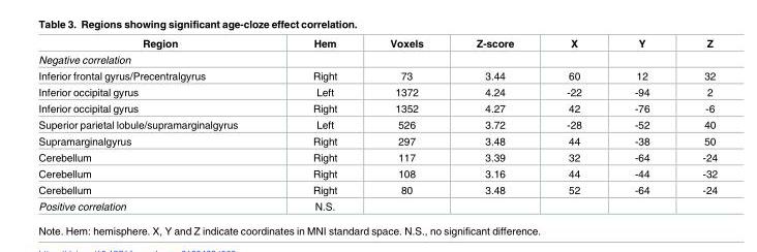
<table><thead><tr><td>Region</td><td>Hem</td><td>Voxels</td><td>Z-score</td><td>X</td><td>Y</td><td>Z</td></tr></thead><tbody><tr><td colspan="7">Negative correlation</td></tr><tr><td>Inferior frontal gyrus/Precentralgyrus</td><td>Right</td><td>73</td><td>3.44</td><td>60</td><td>12</td><td>32</td></tr><tr><td>Inferior occipital gyrus</td><td>Left</td><td>1372</td><td>4.24</td><td>-22</td><td>-94</td><td>2</td></tr><tr><td>Inferior occipital gyrus</td><td>Right</td><td>1352</td><td>4.27</td><td>42</td><td>-76</td><td>-6</td></tr><tr><td>Superior parietal lobule/supramarginalgyrus</td><td>Left</td><td>526</td><td>3.72</td><td>-28</td><td>-52</td><td>40</td></tr><tr><td>Supramarginalgyrus</td><td>Right</td><td>297</td><td>3.48</td><td>44</td><td>-38</td><td>50</td></tr><tr><td>Cerebellum</td><td>Right</td><td>117</td><td>3.39</td><td>32</td><td>-64</td><td>-24</td></tr><tr><td>Cerebellum</td><td>Right</td><td>108</td><td>3.16</td><td>44</td><td>-44</td><td>-32</td></tr><tr><td>Cerebellum</td><td>Right</td><td>80</td><td>3.48</td><td>52</td><td>-64</td><td>-24</td></tr><tr><td>Positive correlation</td><td>N.S.</td><td></td><td></td><td></td><td></td><td></td></tr></tbody></table>